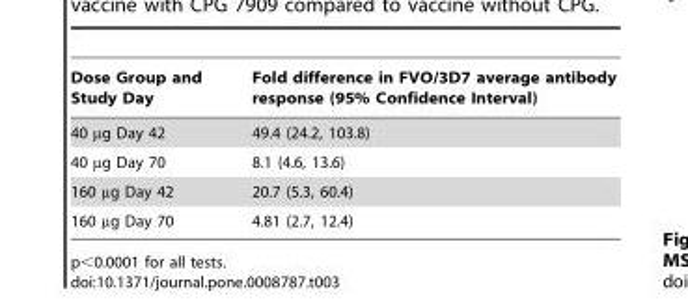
<table><thead><tr><td>Dose Group and Study Day</td><td>Fold difference in FVO/3D7 average antibody response (95% Confidence Interval)</td></tr></thead><tbody><tr><td>40 µg Day 42</td><td>49.4 (24.2, 103.8)</td></tr><tr><td>40 µg Day 70</td><td>8.1 (4.6, 13.6)</td></tr><tr><td>160 µg Day 42</td><td>20.7 (5.3, 60.4)</td></tr><tr><td>160 µg Day 70</td><td>4.81 (2.7, 12.4)</td></tr></tbody></table>